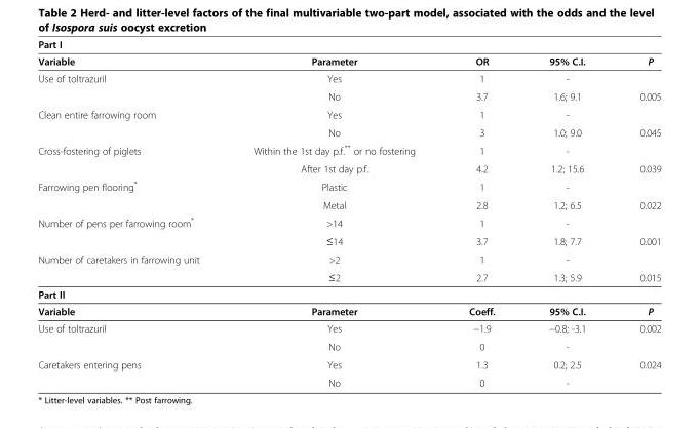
<table><thead><tr><td colspan="5">Part I</td></tr><tr><td>Variable</td><td>Parameter</td><td>OR</td><td>95% C.I.</td><td>P</td></tr></thead><tbody><tr><td rowspan="2">Use of toltrazuril</td><td>Yes</td><td>1</td><td>-</td><td></td></tr><tr><td>No</td><td>3.7</td><td>1.6; 9.1</td><td>0.005</td></tr><tr><td rowspan="2">Clean entire farrowing room</td><td>Yes</td><td>1</td><td>-</td><td></td></tr><tr><td>No</td><td>3</td><td>1.0; 9.0</td><td>0.045</td></tr><tr><td rowspan="2">Cross-fostering of piglets</td><td>Within the 1st day p.f.** or no fostering</td><td>1</td><td>-</td><td></td></tr><tr><td>After 1st day p.f.</td><td>4.2</td><td>1.2; 15.6</td><td>0.039</td></tr><tr><td rowspan="2">Farrowing pen flooring*</td><td>Plastic</td><td>1</td><td>-</td><td></td></tr><tr><td>Metal</td><td>2.8</td><td>1.2; 6.5</td><td>0.022</td></tr><tr><td rowspan="2">Number of pens per farrowing room*</td><td>&gt;14</td><td>1</td><td>-</td><td></td></tr><tr><td>≤14</td><td>3.7</td><td>1.8; 7.7</td><td>0.001</td></tr><tr><td rowspan="2">Number of caretakers in farrowing unit</td><td>&gt;2</td><td>1</td><td>-</td><td></td></tr><tr><td>≤2</td><td>2.7</td><td>1.3; 5.9</td><td>0.015</td></tr><tr><td colspan="5">Part II</td></tr><tr><td>Variable</td><td>Parameter</td><td>Coeff.</td><td>95% C.I.</td><td>P</td></tr><tr><td rowspan="2">Use of toltrazuril</td><td>Yes</td><td>−1.9</td><td>−0.8; -3.1</td><td>0.002</td></tr><tr><td>No</td><td>0</td><td>-</td><td></td></tr><tr><td rowspan="2">Caretakers entering pens</td><td>Yes</td><td>1.3</td><td>0.2; 2.5</td><td>0.024</td></tr><tr><td>No</td><td>0</td><td>-</td><td></td></tr></tbody></table>